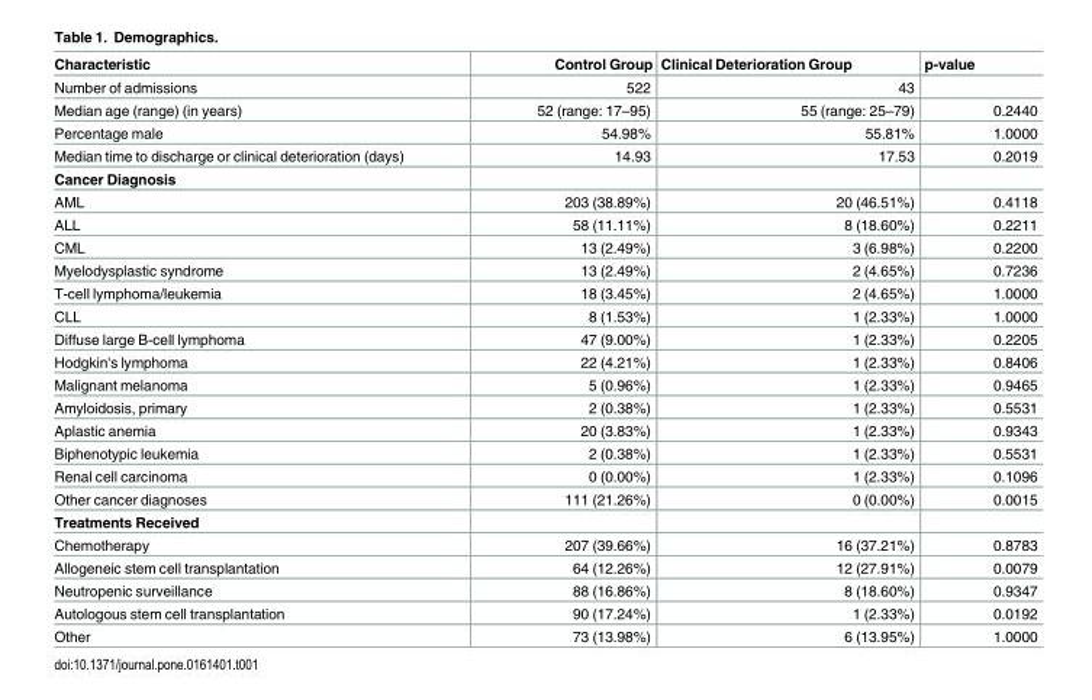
<table><thead><tr><td>Characteristic</td><td>Control Group</td><td>Clinical Deterioration Group</td><td>p-value</td></tr></thead><tbody><tr><td>Number of admissions</td><td>522</td><td>43</td><td></td></tr><tr><td>Median age (range) (in years)</td><td>52 (range: 17–95)</td><td>55 (range: 25–79)</td><td>0.2440</td></tr><tr><td>Percentage male</td><td>54.98%</td><td>55.81%</td><td>1.0000</td></tr><tr><td>Median time to discharge or clinical deterioration (days)</td><td>14.93</td><td>17.53</td><td>0.2019</td></tr><tr><td colspan="4">Cancer Diagnosis</td></tr><tr><td>AML</td><td>203 (38.89%)</td><td>20 (46.51%)</td><td>0.4118</td></tr><tr><td>ALL</td><td>58 (11.11%)</td><td>8 (18.60%)</td><td>0.2211</td></tr><tr><td>CML</td><td>13 (2.49%)</td><td>3 (6.98%)</td><td>0.2200</td></tr><tr><td>Myelodysplastic syndrome</td><td>13 (2.49%)</td><td>2 (4.65%)</td><td>0.7236</td></tr><tr><td>T-cell lymphoma/leukemia</td><td>18 (3.45%)</td><td>2 (4.65%)</td><td>1.0000</td></tr><tr><td>CLL</td><td>8 (1.53%)</td><td>1 (2.33%)</td><td>1.0000</td></tr><tr><td>Diffuse large B-cell lymphoma</td><td>47 (9.00%)</td><td>1 (2.33%)</td><td>0.2205</td></tr><tr><td>Hodgkin&#x27;s lymphoma</td><td>22 (4.21%)</td><td>1 (2.33%)</td><td>0.8406</td></tr><tr><td>Malignant melanoma</td><td>5 (0.96%)</td><td>1 (2.33%)</td><td>0.9465</td></tr><tr><td>Amyloidosis, primary</td><td>2 (0.38%)</td><td>1 (2.33%)</td><td>0.5531</td></tr><tr><td>Aplastic anemia</td><td>20 (3.83%)</td><td>1 (2.33%)</td><td>0.9343</td></tr><tr><td>Biphenotypic leukemia</td><td>2 (0.38%)</td><td>1 (2.33%)</td><td>0.5531</td></tr><tr><td>Renal cell carcinoma</td><td>0 (0.00%)</td><td>1 (2.33%)</td><td>0.1096</td></tr><tr><td>Other cancer diagnoses</td><td>111 (21.26%)</td><td>0 (0.00%)</td><td>0.0015</td></tr><tr><td colspan="4">Treatments Received</td></tr><tr><td>Chemotherapy</td><td>207 (39.66%)</td><td>16 (37.21%)</td><td>0.8783</td></tr><tr><td>Allogeneic stem cell transplantation</td><td>64 (12.26%)</td><td>12 (27.91%)</td><td>0.0079</td></tr><tr><td>Neutropenic surveillance</td><td>88 (16.86%)</td><td>8 (18.60%)</td><td>0.9347</td></tr><tr><td>Autologous stem cell transplantation</td><td>90 (17.24%)</td><td>1 (2.33%)</td><td>0.0192</td></tr><tr><td>Other</td><td>73 (13.98%)</td><td>6 (13.95%)</td><td>1.0000</td></tr></tbody></table>